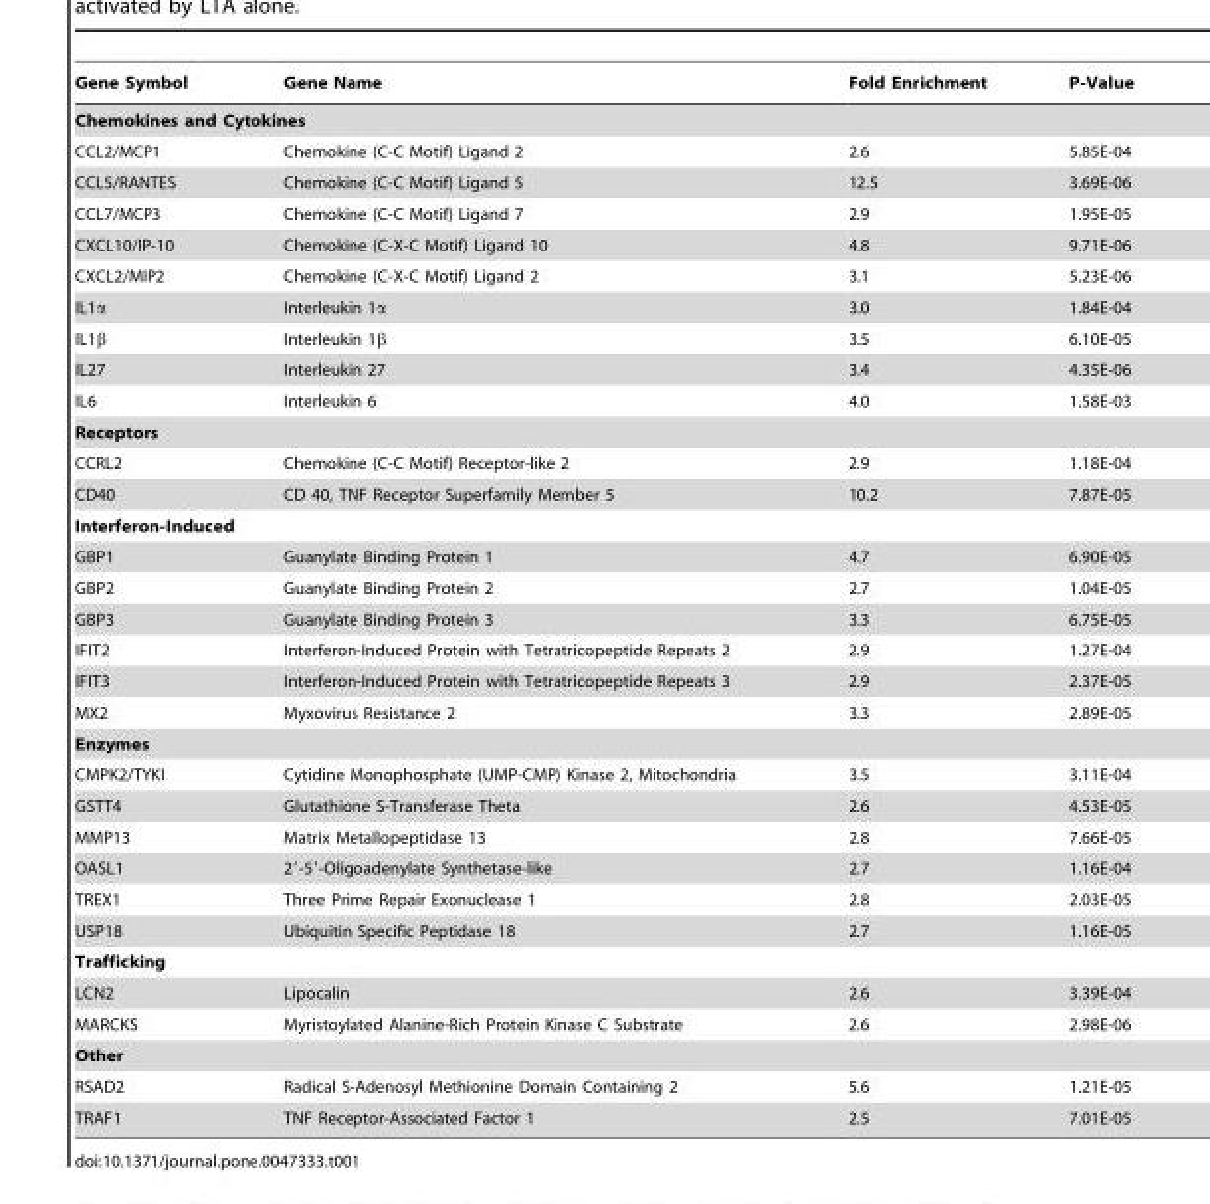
<table><thead><tr><td>Gene Symbol</td><td>Gene Name</td><td>Fold Enrichment</td><td>P-Value</td></tr></thead><tbody><tr><td colspan="4">Chemokines and Cytokines</td></tr><tr><td>CCL2/MCP1</td><td>Chemokine (C-C Motif) Ligand 2</td><td>2.6</td><td>5.85E-04</td></tr><tr><td>CCL5/RANTES</td><td>Chemokine (C-C Motif) Ligand 5</td><td>12.5</td><td>3.69E-06</td></tr><tr><td>CCL7/MCP3</td><td>Chemokine (C-C Motif) Ligand 7</td><td>2.9</td><td>1.95E-05</td></tr><tr><td>CXCL10/IP-10</td><td>Chemokine (C-X-C Motif) Ligand 10</td><td>4.8</td><td>9.71E-06</td></tr><tr><td>CXCL2/MIP2</td><td>Chemokine (C-X-C Motif) Ligand 2</td><td>3.1</td><td>5.23E-06</td></tr><tr><td>IL1α</td><td>Interleukin 1α</td><td>3.0</td><td>1.84E-04</td></tr><tr><td>IL1β</td><td>Interleukin 1β</td><td>3.5</td><td>6.10E-05</td></tr><tr><td>IL27</td><td>Interleukin 27</td><td>3.4</td><td>4.35E-06</td></tr><tr><td>IL6</td><td>Interleukin 6</td><td>4.0</td><td>1.58E-03</td></tr><tr><td colspan="4">Receptors</td></tr><tr><td>CCRL2</td><td>Chemokine (C-C Motif) Receptor-like 2</td><td>2.9</td><td>1.18E-04</td></tr><tr><td>CD40</td><td>CD 40, TNF Receptor Superfamily Member 5</td><td>10.2</td><td>7.87E-05</td></tr><tr><td colspan="4">Interferon-Induced</td></tr><tr><td>GBP1</td><td>Guanylate Binding Protein 1</td><td>4.7</td><td>6.90E-05</td></tr><tr><td>GBP2</td><td>Guanylate Binding Protein 2</td><td>2.7</td><td>1.04E-05</td></tr><tr><td>GBP3</td><td>Guanylate Binding Protein 3</td><td>3.3</td><td>6.75E-05</td></tr><tr><td>IFIT2</td><td>Interferon-Induced Protein with Tetratricopeptide Repeats 2</td><td>2.9</td><td>1.27E-04</td></tr><tr><td>IFIT3</td><td>Interferon-Induced Protein with Tetratricopeptide Repeats 3</td><td>2.9</td><td>2.37E-05</td></tr><tr><td>MX2</td><td>Myxovirus Resistance 2</td><td>3.3</td><td>2.89E-05</td></tr><tr><td colspan="4">Enzymes</td></tr><tr><td>CMPK2/TYKI</td><td>Cytidine Monophosphate (UMP-CMP) Kinase 2, Mitochondria</td><td>3.5</td><td>3.11E-04</td></tr><tr><td>GSTT4</td><td>Glutathione S-Transferase Theta</td><td>2.6</td><td>4.53E-05</td></tr><tr><td>MMP13</td><td>Matrix Metallopeptidase 13</td><td>2.8</td><td>7.66E-05</td></tr><tr><td>OASL1</td><td>2′-5′-Oligoadenylate Synthetase-like</td><td>2.7</td><td>1.16E-04</td></tr><tr><td>TREX1</td><td>Three Prime Repair Exonuclease 1</td><td>2.8</td><td>2.03E-05</td></tr><tr><td>USP18</td><td>Ubiquitin Specific Peptidase 18</td><td>2.7</td><td>1.16E-05</td></tr><tr><td colspan="4">Trafficking</td></tr><tr><td>LCN2</td><td>Lipocalin</td><td>2.6</td><td>3.39E-04</td></tr><tr><td>MARCKS</td><td>Myristoylated Alanine-Rich Protein Kinase C Substrate</td><td>2.6</td><td>2.98E-06</td></tr><tr><td colspan="4">Other</td></tr><tr><td>RSAD2</td><td>Radical S-Adenosyl Methionine Domain Containing 2</td><td>5.6</td><td>1.21E-05</td></tr><tr><td>TRAF1</td><td>TNF Receptor-Associated Factor 1</td><td>2.5</td><td>7.01E-05</td></tr></tbody></table>